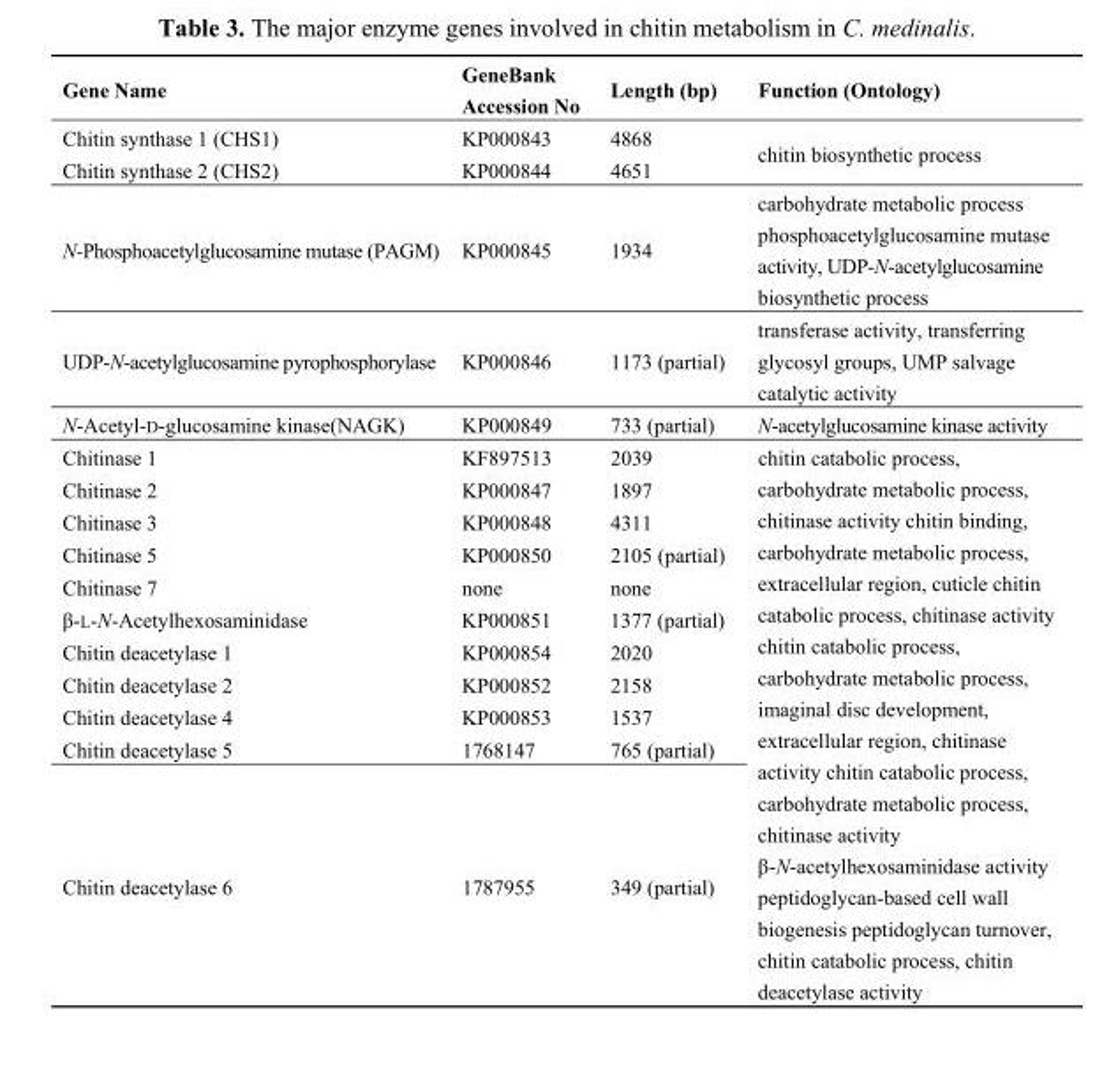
<table><thead><tr><td>Gene Name</td><td>GeneBank Accession No</td><td>Length (bp)</td><td>Function (Ontology)</td></tr></thead><tbody><tr><td>Chitin synthase 1 (CHS1)</td><td>KP000843</td><td>4868</td><td rowspan="2">chitin biosynthetic process</td></tr><tr><td>Chitin synthase 2 (CHS2)</td><td>KP000844</td><td>4651</td></tr><tr><td>N-Phosphoacetylglucosamine mutase (PAGM)</td><td>KP000845</td><td>1934</td><td>carbohydrate metabolic process phosphoacetylglucosamine mutase activity, UDP-N-acetylglucosamine biosynthetic process</td></tr><tr><td>UDP-N-acetylglucosamine pyrophosphorylase</td><td>KP000846</td><td>1173 (partial)</td><td>transferase activity, transferring glycosyl groups, UMP salvage catalytic activity</td></tr><tr><td>N-Acetyl-D-glucosamine kinase(NAGK)</td><td>KP000849</td><td>733 (partial)</td><td>N-acetylglucosamine kinase activity</td></tr><tr><td>Chitinase 1</td><td>KF897513</td><td>2039</td><td rowspan="11">chitin catabolic process, carbohydrate metabolic process, chitinase activity chitin binding, carbohydrate metabolic process, extracellular region, cuticle chitin catabolic process, chitinase activity chitin catabolic process, carbohydrate metabolic process, imaginal disc development, extracellular region, chitinase activity chitin catabolic process, carbohydrate metabolic process, chitinase activity β-N-acetylhexosaminidase activity peptidoglycan-based cell wall biogenesis peptidoglycan turnover, chitin catabolic process, chitin deacetylase activity</td></tr><tr><td>Chitinase 2</td><td>KP000847</td><td>1897</td></tr><tr><td>Chitinase 3</td><td>KP000848</td><td>4311</td></tr><tr><td>Chitinase 5</td><td>KP000850</td><td>2105 (partial)</td></tr><tr><td>Chitinase 7</td><td>none</td><td>none</td></tr><tr><td>β-L-N-Acetylhexosaminidase</td><td>KP000851</td><td>1377 (partial)</td></tr><tr><td>Chitin deacetylase 1</td><td>KP000854</td><td>2020</td></tr><tr><td>Chitin deacetylase 2</td><td>KP000852</td><td>2158</td></tr><tr><td>Chitin deacetylase 4</td><td>KP000853</td><td>1537</td></tr><tr><td>Chitin deacetylase 5</td><td>1768147</td><td>765 (partial)</td></tr><tr><td>Chitin deacetylase 6</td><td>1787955</td><td>349 (partial)</td></tr></tbody></table>